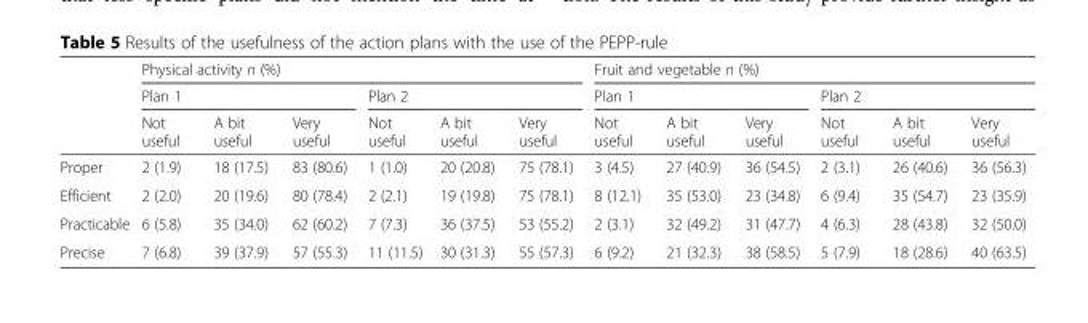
<table><thead><tr><td rowspan="3"></td><td colspan="6">Physical activity n (%)</td><td colspan="6">Fruit and vegetable n (%)</td></tr><tr><td colspan="3">Plan 1</td><td colspan="3">Plan 2</td><td colspan="3">Plan 1</td><td colspan="3">Plan 2</td></tr><tr><td>Not useful</td><td>A bit useful</td><td>Very useful</td><td>Not useful</td><td>A bit useful</td><td>Very useful</td><td>Not useful</td><td>A bit useful</td><td>Very useful</td><td>Not useful</td><td>A bit useful</td><td>Very useful</td></tr></thead><tbody><tr><td>Proper</td><td>2 (1.9)</td><td>18 (17.5)</td><td>83 (80.6)</td><td>1 (1.0)</td><td>20 (20.8)</td><td>75 (78.1)</td><td>3 (4.5)</td><td>27 (40.9)</td><td>36 (54.5)</td><td>2 (3.1)</td><td>26 (40.6)</td><td>36 (56.3)</td></tr><tr><td>Efficient</td><td>2 (2.0)</td><td>20 (19.6)</td><td>80 (78.4)</td><td>2 (2.1)</td><td>19 (19.8)</td><td>75 (78.1)</td><td>8 (12.1)</td><td>35 (53.0)</td><td>23 (34.8)</td><td>6 (9.4)</td><td>35 (54.7)</td><td>23 (35.9)</td></tr><tr><td>Practicable</td><td>6 (5.8)</td><td>35 (34.0)</td><td>62 (60.2)</td><td>7 (7.3)</td><td>36 (37.5)</td><td>53 (55.2)</td><td>2 (3.1)</td><td>32 (49.2)</td><td>31 (47.7)</td><td>4 (6.3)</td><td>28 (43.8)</td><td>32 (50.0)</td></tr><tr><td>Precise</td><td>7 (6.8)</td><td>39 (37.9)</td><td>57 (55.3)</td><td>11 (11.5)</td><td>30 (31.3)</td><td>55 (57.3)</td><td>6 (9.2)</td><td>21 (32.3)</td><td>38 (58.5)</td><td>5 (7.9)</td><td>18 (28.6)</td><td>40 (63.5)</td></tr></tbody></table>